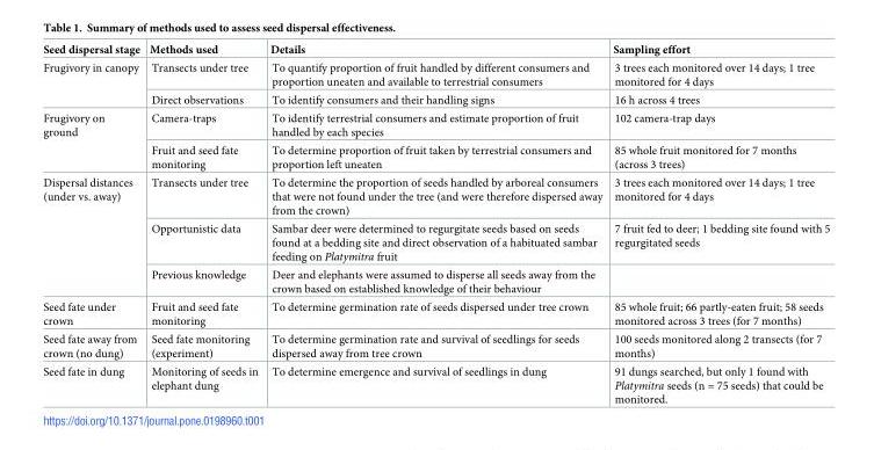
<table><thead><tr><td>Seed dispersal stage</td><td>Methods used</td><td>Details</td><td>Sampling effort</td></tr></thead><tbody><tr><td rowspan="2">Frugivory in canopy</td><td>Transects under tree</td><td>To quantify proportion of fruit handled by different consumers and proportion uneaten and available to terrestrial consumers</td><td>3 trees each monitored over 14 days; 1 tree monitored for 4 days</td></tr><tr><td>Direct observations</td><td>To identify consumers and their handling signs</td><td>16 h across 4 trees</td></tr><tr><td rowspan="2">Frugivory on ground</td><td>Camera-traps</td><td>To identify terrestrial consumers and estimate proportion of fruit handled by each species</td><td>102 camera-trap days</td></tr><tr><td>Fruit and seed fate monitoring</td><td>To determine proportion of fruit taken by terrestrial consumers and proportion left uneaten</td><td>85 whole fruit monitored for 7 months (across 3 trees)</td></tr><tr><td rowspan="3">Dispersal distances (under vs. away)</td><td>Transects under tree</td><td>To determine the proportion of seeds handled by arboreal consumers that were not found under the tree (and were therefore dispersed away from the crown)</td><td>3 trees each monitored over 14 days; 1 tree monitored for 4 days</td></tr><tr><td>Opportunistic data</td><td>Sambar deer were determined to regurgitate seeds based on seeds found at a bedding site and direct observation of a habituated sambar feeding on Platymitra fruit</td><td>7 fruit fed to deer; 1 bedding site found with 5 regurgitated seeds</td></tr><tr><td>Previous knowledge</td><td>Deer and elephants were assumed to disperse all seeds away from the crown based on established knowledge of their behaviour</td><td></td></tr><tr><td>Seed fate under crown</td><td>Fruit and seed fate monitoring</td><td>To determine germination rate of seeds dispersed under tree crown</td><td>85 whole fruit; 66 partly-eaten fruit; 58 seeds monitored across 3 trees (for 7 months)</td></tr><tr><td>Seed fate away from crown (no dung)</td><td>Seed fate monitoring (experiment)</td><td>To determine germination rate and survival of seedlings for seeds dispersed away from tree crown</td><td>100 seeds monitored along 2 transects (for 7 months)</td></tr><tr><td>Seed fate in dung</td><td>Monitoring of seeds in elephant dung</td><td>To determine emergence and survival of seedlings in dung</td><td>91 dungs searched, but only 1 found with Platymitra seeds (n = 75 seeds) that could be monitored.</td></tr></tbody></table>